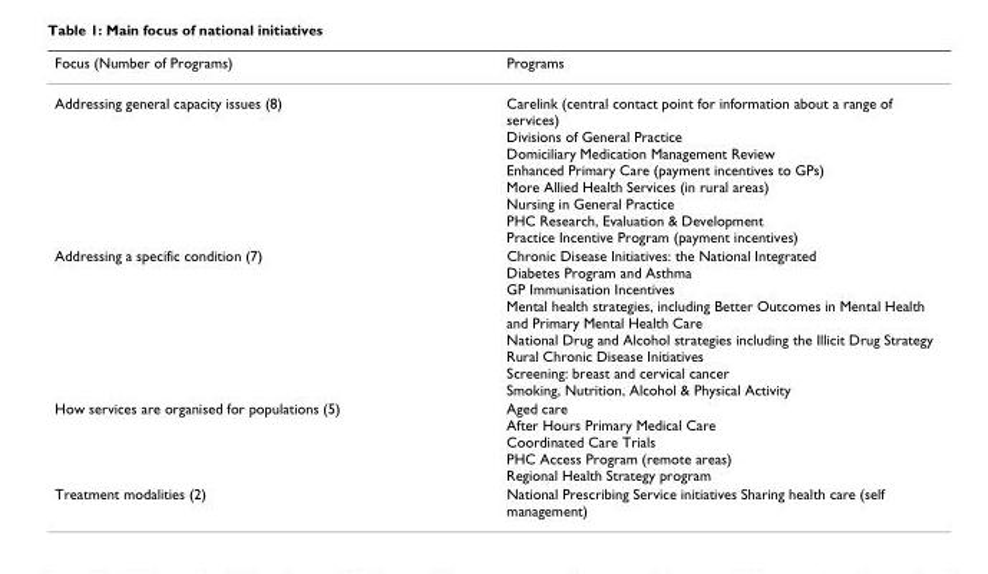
<table><thead><tr><td>Focus (Number of Programs)</td><td>Programs</td></tr></thead><tbody><tr><td>Addressing general capacity issues (8)</td><td>Carelink (central contact point for information about a range of services) Divisions of General Practice Domiciliary Medication Management Review Enhanced Primary Care (payment incentives to GPs) More Allied Health Services (in rural areas) Nursing in General Practice PHC Research, Evaluation &amp; Development Practice Incentive Program (payment incentives)</td></tr><tr><td>Addressing a specific condition (7)</td><td>Chronic Disease Initiatives: the National Integrated Diabetes Program and Asthma GP Immunisation Incentives Mental health strategies, including Better Outcomes in Mental Health and Primary Mental Health Care National Drug and Alcohol strategies including the Illicit Drug Strategy Rural Chronic Disease Initiatives Screening: breast and cervical cancer Smoking, Nutrition, Alcohol &amp; Physical Activity</td></tr><tr><td>How services are organised for populations (5)</td><td>Aged care After Hours Primary Medical Care Coordinated Care Trials PHC Access Program (remote areas) Regional Health Strategy program</td></tr><tr><td>Treatment modalities (2)</td><td>National Prescribing Service initiatives Sharing health care (self management)</td></tr></tbody></table>